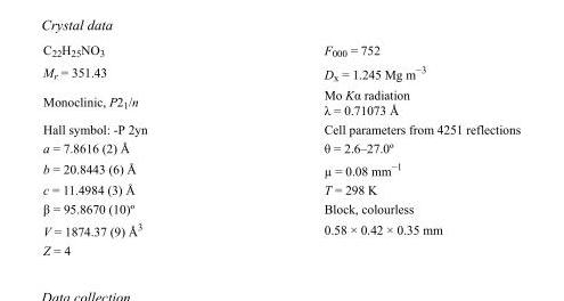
<table><tbody><tr><td>C<sub>22</sub>H<sub>25</sub>NO<sub>3</sub></td><td>F000 = 752</td></tr><tr><td>M<sub>r</sub> = 351.43</td><td>D<sub>x</sub> = 1.245 Mg m<sup>−3</sup></td></tr><tr><td>Monoclinic, P2<sub>1</sub>/n</td><td>Mo Kα radiation λ = 0.71073 Å</td></tr><tr><td>Hall symbol: -P 2yn</td><td>Cell parameters from 4251 reflections</td></tr><tr><td>a = 7.8616 (2) Å</td><td>θ = 2.6–27.0º</td></tr><tr><td>b = 20.8443 (6) Å</td><td>µ = 0.08 mm<sup>−1</sup></td></tr><tr><td>c = 11.4984 (3) Å</td><td>T = 298 K</td></tr><tr><td>β = 95.8670 (10)º</td><td>Block, colourless</td></tr><tr><td>V = 1874.37 (9) Å<sup>3</sup></td><td>0.58 × 0.42 × 0.35 mm</td></tr><tr><td>Z = 4</td><td></td></tr></tbody></table>